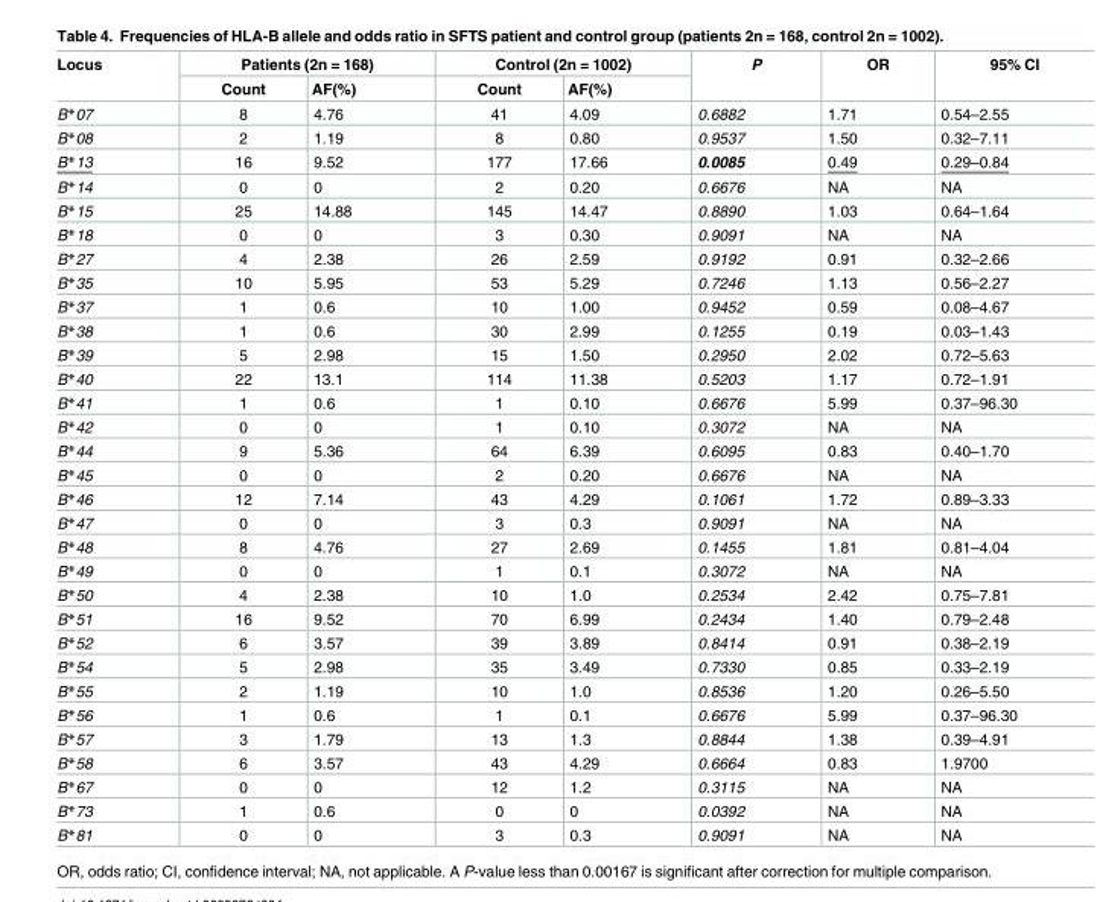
<table><thead><tr><td rowspan="2">Locus</td><td colspan="2">Patients (2n = 168)</td><td colspan="2">Control (2n = 1002)</td><td rowspan="2">P</td><td rowspan="2">OR</td><td rowspan="2">95% CI</td></tr><tr><td>Count</td><td>AF(%)</td><td>Count</td><td>AF(%)</td></tr></thead><tbody><tr><td>B*07</td><td>8</td><td>4.76</td><td>41</td><td>4.09</td><td>0.6882</td><td>1.71</td><td>0.54–2.55</td></tr><tr><td>B*08</td><td>2</td><td>1.19</td><td>8</td><td>0.80</td><td>0.9537</td><td>1.50</td><td>0.32–7.11</td></tr><tr><td>B*13</td><td>16</td><td>9.52</td><td>177</td><td>17.66</td><td>0.0085</td><td>0.49</td><td>0.29–0.84</td></tr><tr><td>B*14</td><td>0</td><td>0</td><td>2</td><td>0.20</td><td>0.6676</td><td>NA</td><td>NA</td></tr><tr><td>B*15</td><td>25</td><td>14.88</td><td>145</td><td>14.47</td><td>0.8890</td><td>1.03</td><td>0.64–1.64</td></tr><tr><td>B*18</td><td>0</td><td>0</td><td>3</td><td>0.30</td><td>0.9091</td><td>NA</td><td>NA</td></tr><tr><td>B*27</td><td>4</td><td>2.38</td><td>26</td><td>2.59</td><td>0.9192</td><td>0.91</td><td>0.32–2.66</td></tr><tr><td>B*35</td><td>10</td><td>5.95</td><td>53</td><td>5.29</td><td>0.7246</td><td>1.13</td><td>0.56–2.27</td></tr><tr><td>B*37</td><td>1</td><td>0.6</td><td>10</td><td>1.00</td><td>0.9452</td><td>0.59</td><td>0.08–4.67</td></tr><tr><td>B*38</td><td>1</td><td>0.6</td><td>30</td><td>2.99</td><td>0.1255</td><td>0.19</td><td>0.03–1.43</td></tr><tr><td>B*39</td><td>5</td><td>2.98</td><td>15</td><td>1.50</td><td>0.2950</td><td>2.02</td><td>0.72–5.63</td></tr><tr><td>B*40</td><td>22</td><td>13.1</td><td>114</td><td>11.38</td><td>0.5203</td><td>1.17</td><td>0.72–1.91</td></tr><tr><td>B*41</td><td>1</td><td>0.6</td><td>1</td><td>0.10</td><td>0.6676</td><td>5.99</td><td>0.37–96.30</td></tr><tr><td>B*42</td><td>0</td><td>0</td><td>1</td><td>0.10</td><td>0.3072</td><td>NA</td><td>NA</td></tr><tr><td>B*44</td><td>9</td><td>5.36</td><td>64</td><td>6.39</td><td>0.6095</td><td>0.83</td><td>0.40–1.70</td></tr><tr><td>B*45</td><td>0</td><td>0</td><td>2</td><td>0.20</td><td>0.6676</td><td>NA</td><td>NA</td></tr><tr><td>B*46</td><td>12</td><td>7.14</td><td>43</td><td>4.29</td><td>0.1061</td><td>1.72</td><td>0.89–3.33</td></tr><tr><td>B*47</td><td>0</td><td>0</td><td>3</td><td>0.3</td><td>0.9091</td><td>NA</td><td>NA</td></tr><tr><td>B*48</td><td>8</td><td>4.76</td><td>27</td><td>2.69</td><td>0.1455</td><td>1.81</td><td>0.81–4.04</td></tr><tr><td>B*49</td><td>0</td><td>0</td><td>1</td><td>0.1</td><td>0.3072</td><td>NA</td><td>NA</td></tr><tr><td>B*50</td><td>4</td><td>2.38</td><td>10</td><td>1.0</td><td>0.2534</td><td>2.42</td><td>0.75–7.81</td></tr><tr><td>B*51</td><td>16</td><td>9.52</td><td>70</td><td>6.99</td><td>0.2434</td><td>1.40</td><td>0.79–2.48</td></tr><tr><td>B*52</td><td>6</td><td>3.57</td><td>39</td><td>3.89</td><td>0.8414</td><td>0.91</td><td>0.38–2.19</td></tr><tr><td>B*54</td><td>5</td><td>2.98</td><td>35</td><td>3.49</td><td>0.7330</td><td>0.85</td><td>0.33–2.19</td></tr><tr><td>B*55</td><td>2</td><td>1.19</td><td>10</td><td>1.0</td><td>0.8536</td><td>1.20</td><td>0.26–5.50</td></tr><tr><td>B*56</td><td>1</td><td>0.6</td><td>1</td><td>0.1</td><td>0.6676</td><td>5.99</td><td>0.37–96.30</td></tr><tr><td>B*57</td><td>3</td><td>1.79</td><td>13</td><td>1.3</td><td>0.8844</td><td>1.38</td><td>0.39–4.91</td></tr><tr><td>B*58</td><td>6</td><td>3.57</td><td>43</td><td>4.29</td><td>0.6664</td><td>0.83</td><td>1.9700</td></tr><tr><td>B*67</td><td>0</td><td>0</td><td>12</td><td>1.2</td><td>0.3115</td><td>NA</td><td>NA</td></tr><tr><td>B*73</td><td>1</td><td>0.6</td><td>0</td><td>0</td><td>0.0392</td><td>NA</td><td>NA</td></tr><tr><td>B*81</td><td>0</td><td>0</td><td>3</td><td>0.3</td><td>0.9091</td><td>NA</td><td>NA</td></tr></tbody></table>